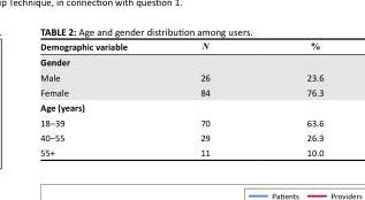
<table><thead><tr><td>Demographic variable</td><td>N</td><td>%</td></tr></thead><tbody><tr><td colspan="3">Gender</td></tr><tr><td>Male</td><td>26</td><td>23.6</td></tr><tr><td>Female</td><td>84</td><td>76.3</td></tr><tr><td colspan="3">Age (years)</td></tr><tr><td>18–39</td><td>70</td><td>63.6</td></tr><tr><td>40–55</td><td>29</td><td>26.3</td></tr><tr><td>55+</td><td>11</td><td>10.0</td></tr></tbody></table>